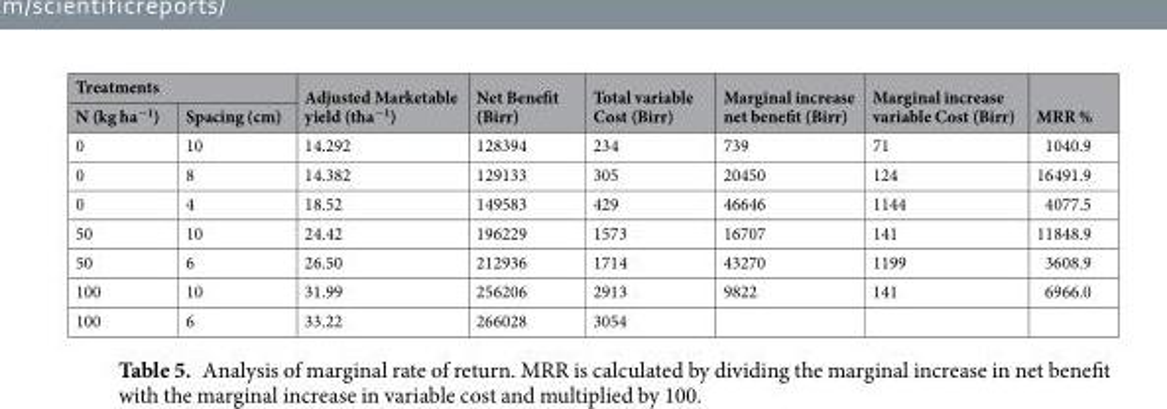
<table><thead><tr><td colspan="2">Treatments</td><td rowspan="2">Adjusted Marketable yield (tha<sup>−1</sup>)</td><td rowspan="2">Net Benefit (Birr)</td><td rowspan="2">Total variable Cost (Birr)</td><td rowspan="2">Marginal increase net benefit (Birr)</td><td rowspan="2">Marginal increase variable Cost (Birr)</td><td rowspan="2">MRR %</td></tr><tr><td>N (kg ha<sup>−1</sup>)</td><td>Spacing (cm)</td></tr></thead><tbody><tr><td>0</td><td>10</td><td>14.292</td><td>128394</td><td>234</td><td>739</td><td>71</td><td>1040.9</td></tr><tr><td>0</td><td>8</td><td>14.382</td><td>129133</td><td>305</td><td>20450</td><td>124</td><td>16491.9</td></tr><tr><td>0</td><td>4</td><td>18.52</td><td>149583</td><td>429</td><td>46646</td><td>1144</td><td>4077.5</td></tr><tr><td>50</td><td>10</td><td>24.42</td><td>196229</td><td>1573</td><td>16707</td><td>141</td><td>11848.9</td></tr><tr><td>50</td><td>6</td><td>26.50</td><td>212936</td><td>1714</td><td>43270</td><td>1199</td><td>3608.9</td></tr><tr><td>100</td><td>10</td><td>31.99</td><td>256206</td><td>2913</td><td>9822</td><td>141</td><td>6966.0</td></tr><tr><td>100</td><td>6</td><td>33.22</td><td>266028</td><td>3054</td><td></td><td></td><td></td></tr></tbody></table>